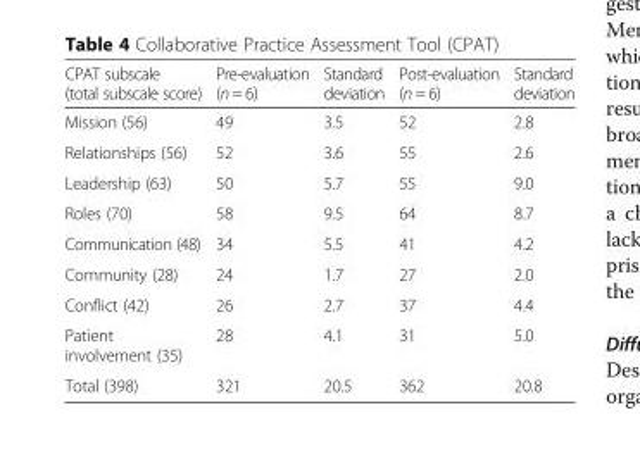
<table><thead><tr><td>CPAT subscale (total subscale score)</td><td>Pre-evaluation (n = 6)</td><td>Standard deviation</td><td>Post-evaluation (n = 6)</td><td>Standard deviation</td></tr></thead><tbody><tr><td>Mission (56)</td><td>49</td><td>3.5</td><td>52</td><td>2.8</td></tr><tr><td>Relationships (56)</td><td>52</td><td>3.6</td><td>55</td><td>2.6</td></tr><tr><td>Leadership (63)</td><td>50</td><td>5.7</td><td>55</td><td>9.0</td></tr><tr><td>Roles (70)</td><td>58</td><td>9.5</td><td>64</td><td>8.7</td></tr><tr><td>Communication (48)</td><td>34</td><td>5.5</td><td>41</td><td>4.2</td></tr><tr><td>Community (28)</td><td>24</td><td>1.7</td><td>27</td><td>2.0</td></tr><tr><td>Conflict (42)</td><td>26</td><td>2.7</td><td>37</td><td>4.4</td></tr><tr><td>Patient involvement (35)</td><td>28</td><td>4.1</td><td>31</td><td>5.0</td></tr><tr><td>Total (398)</td><td>321</td><td>20.5</td><td>362</td><td>20.8</td></tr></tbody></table>